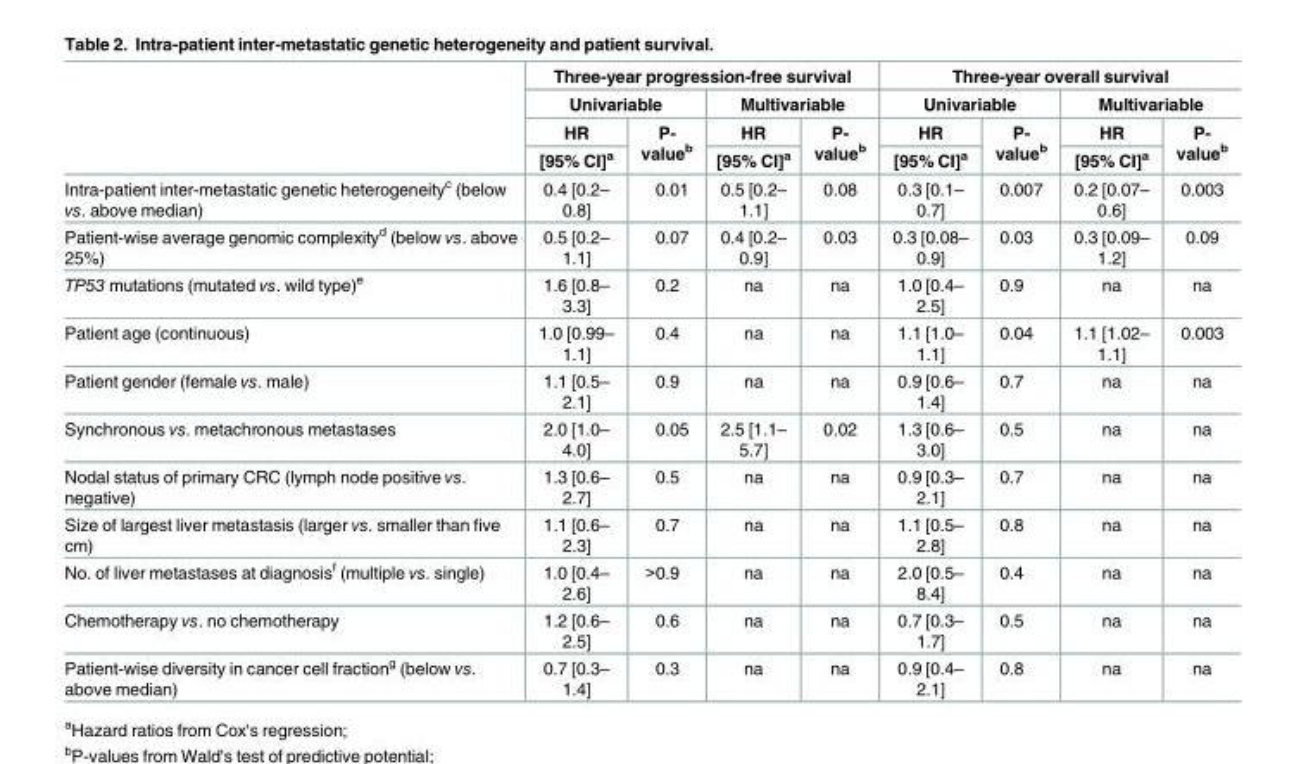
<table><thead><tr><td rowspan="4"></td><td colspan="4">Three-year progression-free survival</td><td colspan="4">Three-year overall survival</td></tr><tr><td colspan="2">Univariable</td><td colspan="2">Multivariable</td><td colspan="2">Univariable</td><td colspan="2">Multivariable</td></tr><tr><td rowspan="2">HR [95% CI]<sup>a</sup></td><td rowspan="2">P- value<sup>b</sup></td><td rowspan="2">HR [95% CI]<sup>a</sup></td><td rowspan="2">P- value<sup>b</sup></td><td rowspan="2">HR [95% CI]<sup>a</sup></td><td rowspan="2">P- value<sup>b</sup></td><td rowspan="2">HR [95% CI]<sup>a</sup></td><td rowspan="2">P- value<sup>b</sup></td></tr><tr></tr></thead><tbody><tr><td>Intra-patient inter-metastatic genetic heterogeneity<sup>c</sup> (below vs. above median)</td><td>0.4 [0.2– 0.8]</td><td>0.01</td><td>0.5 [0.2– 1.1]</td><td>0.08</td><td>0.3 [0.1– 0.7]</td><td>0.007</td><td>0.2 [0.07– 0.6]</td><td>0.003</td></tr><tr><td>Patient-wise average genomic complexity<sup>d</sup> (below vs. above 25%)</td><td>0.5 [0.2– 1.1]</td><td>0.07</td><td>0.4 [0.2– 0.9]</td><td>0.03</td><td>0.3 [0.08– 0.9]</td><td>0.03</td><td>0.3 [0.09– 1.2]</td><td>0.09</td></tr><tr><td>TP53 mutations (mutated vs. wild type)<sup>e</sup></td><td>1.6 [0.8– 3.3]</td><td>0.2</td><td>na</td><td>na</td><td>1.0 [0.4– 2.5]</td><td>0.9</td><td>na</td><td>na</td></tr><tr><td>Patient age (continuous)</td><td>1.0 [0.99– 1.1]</td><td>0.4</td><td>na</td><td>na</td><td>1.1 [1.0– 1.1]</td><td>0.04</td><td>1.1 [1.02– 1.1]</td><td>0.003</td></tr><tr><td>Patient gender (female vs. male)</td><td>1.1 [0.5– 2.1]</td><td>0.9</td><td>na</td><td>na</td><td>0.9 [0.6– 1.4]</td><td>0.7</td><td>na</td><td>na</td></tr><tr><td>Synchronous vs. metachronous metastases</td><td>2.0 [1.0– 4.0]</td><td>0.05</td><td>2.5 [1.1– 5.7]</td><td>0.02</td><td>1.3 [0.6– 3.0]</td><td>0.5</td><td>na</td><td>na</td></tr><tr><td>Nodal status of primary CRC (lymph node positive vs. negative)</td><td>1.3 [0.6– 2.7]</td><td>0.5</td><td>na</td><td>na</td><td>0.9 [0.3– 2.1]</td><td>0.7</td><td>na</td><td>na</td></tr><tr><td>Size of largest liver metastasis (larger vs. smaller than five cm)</td><td>1.1 [0.6– 2.3]</td><td>0.7</td><td>na</td><td>na</td><td>1.1 [0.5– 2.8]</td><td>0.8</td><td>na</td><td>na</td></tr><tr><td>No. of liver metastases at diagnosis<sup>f</sup> (multiple vs. single)</td><td>1.0 [0.4– 2.6]</td><td>&gt;0.9</td><td>na</td><td>na</td><td>2.0 [0.5– 8.4]</td><td>0.4</td><td>na</td><td>na</td></tr><tr><td>Chemotherapy vs. no chemotherapy</td><td>1.2 [0.6– 2.5]</td><td>0.6</td><td>na</td><td>na</td><td>0.7 [0.3– 1.7]</td><td>0.5</td><td>na</td><td>na</td></tr><tr><td>Patient-wise diversity in cancer cell fraction<sup>g</sup> (below vs. above median)</td><td>0.7 [0.3– 1.4]</td><td>0.3</td><td>na</td><td>na</td><td>0.9 [0.4– 2.1]</td><td>0.8</td><td>na</td><td>na</td></tr></tbody></table>